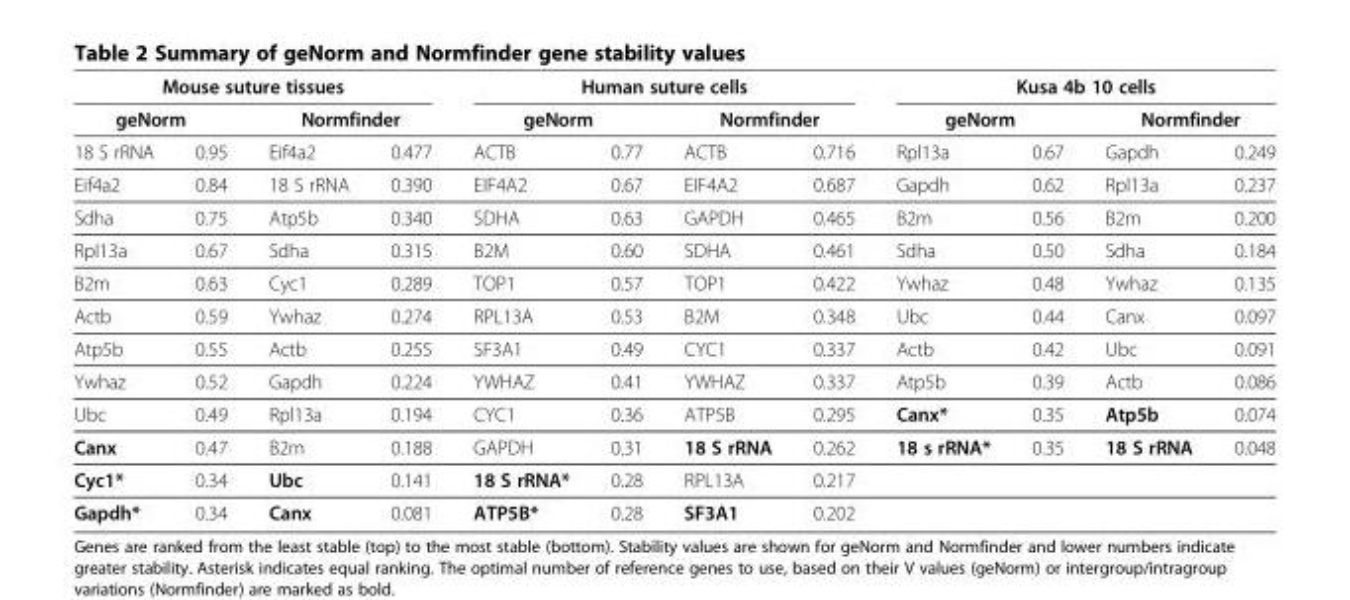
<table><thead><tr><td colspan="4">Mouse suture tissues</td><td colspan="4">Human suture cells</td><td colspan="4">Kusa 4b 10 cells</td></tr><tr><td colspan="2">geNorm</td><td colspan="2">Normfinder</td><td colspan="2">geNorm</td><td colspan="2">Normfinder</td><td colspan="2">geNorm</td><td colspan="2">Normfinder</td></tr><tr><td>18 S rRNA</td><td>0.95</td><td>Eif4a2</td><td>0.477</td><td>ACTB</td><td>0.77</td><td>ACTB</td><td>0.716</td><td>Rpl13a</td><td>0.67</td><td>Gapdh</td><td>0.249</td></tr></thead><tbody><tr><td>Eif4a2</td><td>0.84</td><td>18 S rRNA</td><td>0.390</td><td>EIF4A2</td><td>0.67</td><td>EIF4A2</td><td>0.687</td><td>Gapdh</td><td>0.62</td><td>Rpl13a</td><td>0.237</td></tr><tr><td>Sdha</td><td>0.75</td><td>Atp5b</td><td>0.340</td><td>SDHA</td><td>0.63</td><td>GAPDH</td><td>0.465</td><td>B2m</td><td>0.56</td><td>B2m</td><td>0.200</td></tr><tr><td>Rpl13a</td><td>0.67</td><td>Sdha</td><td>0.315</td><td>B2M</td><td>0.60</td><td>SDHA</td><td>0.461</td><td>Sdha</td><td>0.50</td><td>Sdha</td><td>0.184</td></tr><tr><td>B2m</td><td>0.63</td><td>Cyc1</td><td>0.289</td><td>TOP1</td><td>0.57</td><td>TOP1</td><td>0.422</td><td>Ywhaz</td><td>0.48</td><td>Ywhaz</td><td>0.135</td></tr><tr><td>Actb</td><td>0.59</td><td>Ywhaz</td><td>0.274</td><td>RPL13A</td><td>0.53</td><td>B2M</td><td>0.348</td><td>Ubc</td><td>0.44</td><td>Canx</td><td>0.097</td></tr><tr><td>Atp5b</td><td>0.55</td><td>Actb</td><td>0.255</td><td>SF3A1</td><td>0.49</td><td>CYC1</td><td>0.337</td><td>Actb</td><td>0.42</td><td>Ubc</td><td>0.091</td></tr><tr><td>Ywhaz</td><td>0.52</td><td>Gapdh</td><td>0.224</td><td>YWHAZ</td><td>0.41</td><td>YWHAZ</td><td>0.337</td><td>Atp5b</td><td>0.39</td><td>Actb</td><td>0.086</td></tr><tr><td>Ubc</td><td>0.49</td><td>Rpl13a</td><td>0.194</td><td>CYC1</td><td>0.36</td><td>ATP5B</td><td>0.295</td><td>Canx*</td><td>0.35</td><td>Atp5b</td><td>0.074</td></tr><tr><td>Canx</td><td>0.47</td><td>B2m</td><td>0.188</td><td>GAPDH</td><td>0.31</td><td>18 S rRNA</td><td>0.262</td><td>18 s rRNA*</td><td>0.35</td><td>18 S rRNA</td><td>0.048</td></tr><tr><td>Cyc1*</td><td>0.34</td><td>Ubc</td><td>0.141</td><td>18 S rRNA*</td><td>0.28</td><td>RPL13A</td><td>0.217</td><td></td><td></td><td></td><td></td></tr><tr><td>Gapdh*</td><td>0.34</td><td>Canx</td><td>0.081</td><td>ATP5B*</td><td>0.28</td><td>SF3A1</td><td>0.202</td><td></td><td></td><td></td><td></td></tr></tbody></table>